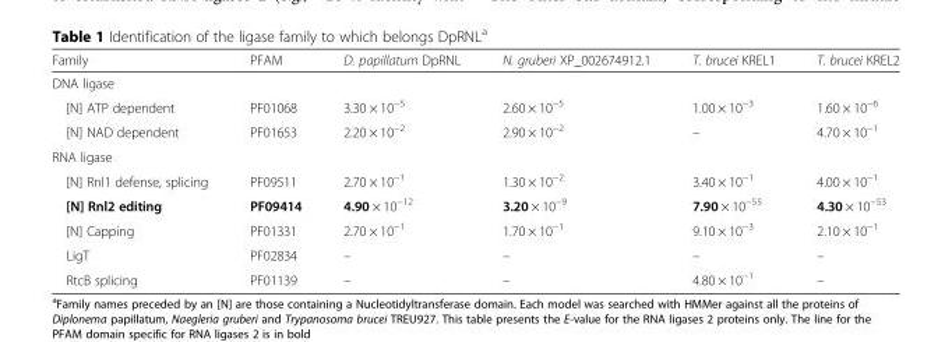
<table><thead><tr><td>Family</td><td>PFAM</td><td>D. papillatum DpRNL</td><td>N. gruberi XP_002674912.1</td><td>T. brucei KREL1</td><td>T. brucei KREL2</td></tr></thead><tbody><tr><td colspan="6">DNA ligase</td></tr><tr><td>[N] ATP dependent</td><td>PF01068</td><td>3.30 × 10<sup>−5</sup></td><td>2.60 × 10<sup>−5</sup></td><td>1.00 × 10<sup>−3</sup></td><td>1.60 × 10<sup>−6</sup></td></tr><tr><td>[N] NAD dependent</td><td>PF01653</td><td>2.20 × 10<sup>−2</sup></td><td>2.90 × 10<sup>−2</sup></td><td>–</td><td>4.70 × 10<sup>−1</sup></td></tr><tr><td colspan="6">RNA ligase</td></tr><tr><td>[N] Rnl1 defense, splicing</td><td>PF09511</td><td>2.70 × 10<sup>−1</sup></td><td>1.30 × 10<sup>−2</sup></td><td>3.40 × 10<sup>−1</sup></td><td>4.00 × 10<sup>−1</sup></td></tr><tr><td>[N] Rnl2 editing</td><td>PF09414</td><td>4.90 × 10<sup>−12</sup></td><td>3.20 × 10<sup>−9</sup></td><td>7.90 × 10<sup>−55</sup></td><td>4.30 × 10<sup>−53</sup></td></tr><tr><td>[N] Capping</td><td>PF01331</td><td>2.70 × 10<sup>−1</sup></td><td>1.70 × 10<sup>−1</sup></td><td>9.10 × 10<sup>−3</sup></td><td>2.10 × 10<sup>−1</sup></td></tr><tr><td>LigT</td><td>PF02834</td><td>–</td><td>–</td><td>–</td><td>–</td></tr><tr><td>RtcB splicing</td><td>PF01139</td><td>–</td><td>–</td><td>4.80 × 10<sup>−1</sup></td><td>–</td></tr></tbody></table>